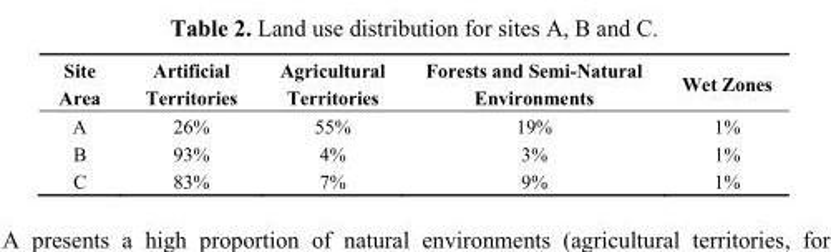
<table><thead><tr><td>Site Area</td><td>Artificial Territories</td><td>Agricultural Territories</td><td>Forests and Semi-Natural Environments</td><td>Wet Zones</td></tr></thead><tbody><tr><td>A</td><td>26%</td><td>55%</td><td>19%</td><td>1%</td></tr><tr><td>B</td><td>93%</td><td>4%</td><td>3%</td><td>1%</td></tr><tr><td>C</td><td>83%</td><td>7%</td><td>9%</td><td>1%</td></tr></tbody></table>